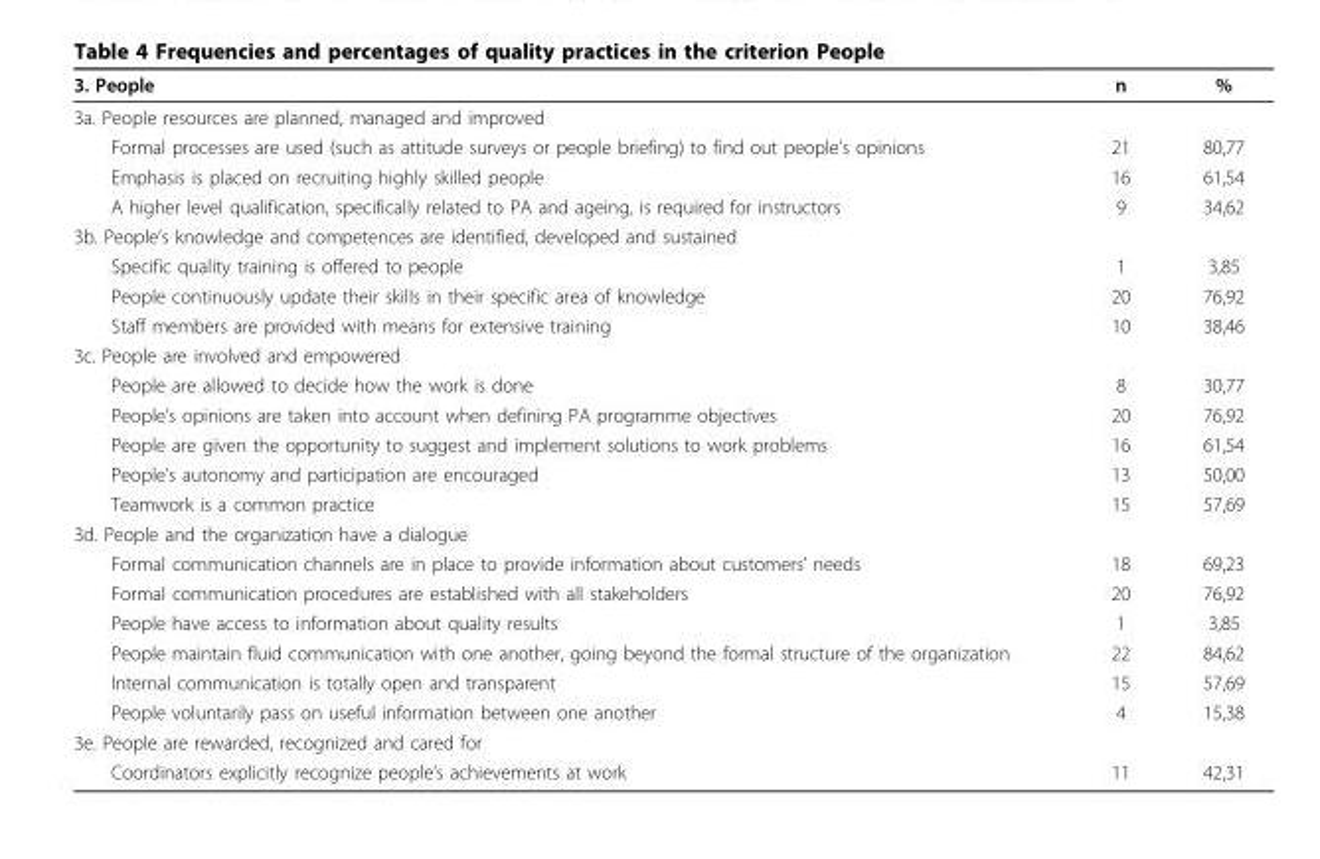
<table><thead><tr><td>3. People</td><td>n</td><td>%</td></tr></thead><tbody><tr><td colspan="3">3a. People resources are planned, managed and improved</td></tr><tr><td>Formal processes are used (such as attitude surveys or people briefing) to find out people’s opinions</td><td>21</td><td>80,77</td></tr><tr><td>Emphasis is placed on recruiting highly skilled people</td><td>16</td><td>61,54</td></tr><tr><td>A higher level qualification, specifically related to PA and ageing, is required for instructors</td><td>9</td><td>34,62</td></tr><tr><td colspan="3">3b. People’s knowledge and competences are identified, developed and sustained</td></tr><tr><td>Specific quality training is offered to people</td><td>1</td><td>3,85</td></tr><tr><td>People continuously update their skills in their specific area of knowledge</td><td>20</td><td>76,92</td></tr><tr><td>Staff members are provided with means for extensive training</td><td>10</td><td>38,46</td></tr><tr><td colspan="3">3c. People are involved and empowered</td></tr><tr><td>People are allowed to decide how the work is done</td><td>8</td><td>30,77</td></tr><tr><td>People’s opinions are taken into account when defining PA programme objectives</td><td>20</td><td>76,92</td></tr><tr><td>People are given the opportunity to suggest and implement solutions to work problems</td><td>16</td><td>61,54</td></tr><tr><td>People’s autonomy and participation are encouraged</td><td>13</td><td>50,00</td></tr><tr><td>Teamwork is a common practice</td><td>15</td><td>57,69</td></tr><tr><td colspan="3">3d. People and the organization have a dialogue</td></tr><tr><td>Formal communication channels are in place to provide information about customers’ needs</td><td>18</td><td>69,23</td></tr><tr><td>Formal communication procedures are established with all stakeholders</td><td>20</td><td>76,92</td></tr><tr><td>People have access to information about quality results</td><td>1</td><td>3,85</td></tr><tr><td>People maintain fluid communication with one another, going beyond the formal structure of the organization</td><td>22</td><td>84,62</td></tr><tr><td>Internal communication is totally open and transparent</td><td>15</td><td>57,69</td></tr><tr><td>People voluntarily pass on useful information between one another</td><td>4</td><td>15,38</td></tr><tr><td colspan="3">3e. People are rewarded, recognized and cared for</td></tr><tr><td>Coordinators explicitly recognize people’s achievements at work</td><td>11</td><td>42,31</td></tr></tbody></table>